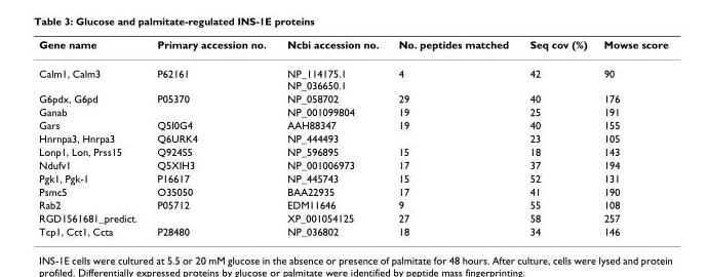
<table><thead><tr><td>Gene name</td><td>Primary accession no.</td><td>Ncbi accession no.</td><td>No. peptides matched</td><td>Seq cov (%)</td><td>Mowse score</td></tr></thead><tbody><tr><td>Calm1, Calm3</td><td>P62161</td><td>NP_114175.1 NP_036650.1</td><td>4</td><td>42</td><td>90</td></tr><tr><td>G6pdx, G6pd</td><td>P05370</td><td>NP_058702</td><td>29</td><td>40</td><td>176</td></tr><tr><td>Ganab</td><td></td><td>NP_001099804</td><td>19</td><td>25</td><td>191</td></tr><tr><td>Gars</td><td>Q5I0G4</td><td>AAH88347</td><td>19</td><td>40</td><td>155</td></tr><tr><td>Hnrnpa3, Hnrpa3</td><td>Q6URK4</td><td>NP_444493</td><td></td><td>23</td><td>105</td></tr><tr><td>Lonp1, Lon, Prss15</td><td>Q924S5</td><td>NP_596895</td><td>15</td><td>18</td><td>143</td></tr><tr><td>Ndufv1</td><td>Q5XIH3</td><td>NP_001006973</td><td>17</td><td>37</td><td>194</td></tr><tr><td>Pgk1, Pgk-1</td><td>P16617</td><td>NP_445743</td><td>15</td><td>52</td><td>131</td></tr><tr><td>Psmc5</td><td>O35050</td><td>BAA22935</td><td>17</td><td>41</td><td>190</td></tr><tr><td>Rab2</td><td>P05712</td><td>EDM11646</td><td>9</td><td>55</td><td>108</td></tr><tr><td>RGD1561681_predict.</td><td></td><td>XP_001054125</td><td>27</td><td>58</td><td>257</td></tr><tr><td>Tcp1, Cct1, Ccta</td><td>P28480</td><td>NP_036802</td><td>18</td><td>34</td><td>146</td></tr></tbody></table>